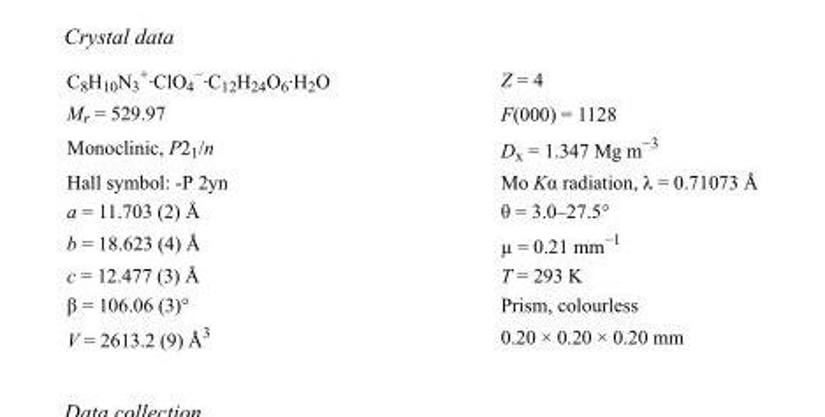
<table><tbody><tr><td>C<sub>8</sub>H<sub>10</sub>N<sub>3</sub> <sup>+</sup>·ClO<sub>4</sub> <sup>−</sup>·C<sub>12</sub>H<sub>24</sub>O<sub>6</sub>·H<sub>2</sub>O</td><td>Z = 4</td></tr><tr><td>M<sub>r</sub> = 529.97</td><td>F(000) = 1128</td></tr><tr><td>Monoclinic, P2<sub>1</sub>/n</td><td>D<sub>x</sub> = 1.347 Mg m<sup>−3</sup></td></tr><tr><td>Hall symbol: -P 2yn</td><td>Mo Kα radiation, λ = 0.71073 Å</td></tr><tr><td>a = 11.703 (2) Å</td><td>θ = 3.0–27.5°</td></tr><tr><td>b = 18.623 (4) Å</td><td>µ = 0.21 mm<sup>−1</sup></td></tr><tr><td>c = 12.477 (3) Å</td><td>T = 293 K</td></tr><tr><td>β = 106.06 (3)°</td><td>Prism, colourless</td></tr><tr><td>V = 2613.2 (9) Å<sup>3</sup></td><td>0.20 × 0.20 × 0.20 mm</td></tr></tbody></table>